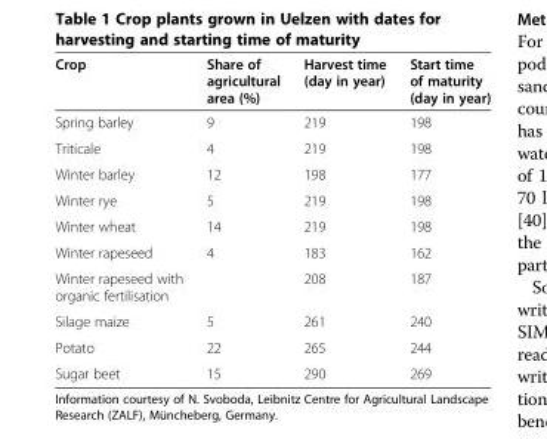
<table><thead><tr><td>Crop</td><td>Share of agricultural area (%)</td><td>Harvest time (day in year)</td><td>Start time of maturity (day in year)</td></tr></thead><tbody><tr><td>Spring barley</td><td>9</td><td>219</td><td>198</td></tr><tr><td>Triticale</td><td>4</td><td>219</td><td>198</td></tr><tr><td>Winter barley</td><td>12</td><td>198</td><td>177</td></tr><tr><td>Winter rye</td><td>5</td><td>219</td><td>198</td></tr><tr><td>Winter wheat</td><td>14</td><td>219</td><td>198</td></tr><tr><td>Winter rapeseed</td><td rowspan="2">4</td><td>183</td><td>162</td></tr><tr><td>Winter rapeseed with organic fertilisation</td><td>208</td><td>187</td></tr><tr><td>Silage maize</td><td>5</td><td>261</td><td>240</td></tr><tr><td>Potato</td><td>22</td><td>265</td><td>244</td></tr><tr><td>Sugar beet</td><td>15</td><td>290</td><td>269</td></tr></tbody></table>